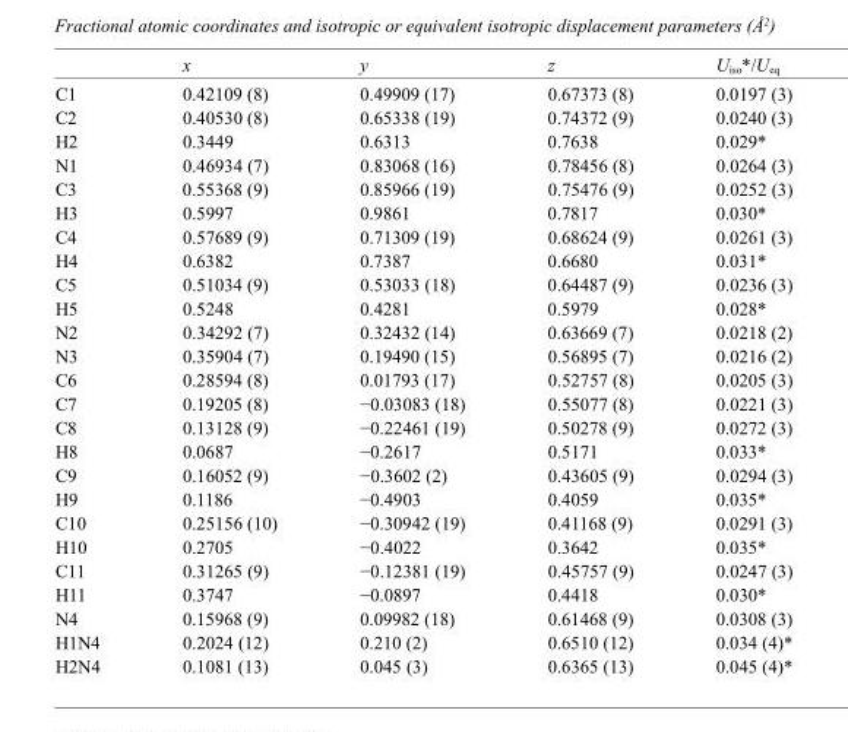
<table><thead><tr><td></td><td>x</td><td>y</td><td>z</td><td>U<sub>iso</sub>*/U<sub>eq</sub></td></tr></thead><tbody><tr><td>C1</td><td>0.42109 (8)</td><td>0.49909 (17)</td><td>0.67373 (8)</td><td>0.0197 (3)</td></tr><tr><td>C2</td><td>0.40530 (8)</td><td>0.65338 (19)</td><td>0.74372 (9)</td><td>0.0240 (3)</td></tr><tr><td>H2</td><td>0.3449</td><td>0.6313</td><td>0.7638</td><td>0.029*</td></tr><tr><td>N1</td><td>0.46934 (7)</td><td>0.83068 (16)</td><td>0.78456 (8)</td><td>0.0264 (3)</td></tr><tr><td>C3</td><td>0.55368 (9)</td><td>0.85966 (19)</td><td>0.75476 (9)</td><td>0.0252 (3)</td></tr><tr><td>H3</td><td>0.5997</td><td>0.9861</td><td>0.7817</td><td>0.030*</td></tr><tr><td>C4</td><td>0.57689 (9)</td><td>0.71309 (19)</td><td>0.68624 (9)</td><td>0.0261 (3)</td></tr><tr><td>H4</td><td>0.6382</td><td>0.7387</td><td>0.6680</td><td>0.031*</td></tr><tr><td>C5</td><td>0.51034 (9)</td><td>0.53033 (18)</td><td>0.64487 (9)</td><td>0.0236 (3)</td></tr><tr><td>H5</td><td>0.5248</td><td>0.4281</td><td>0.5979</td><td>0.028*</td></tr><tr><td>N2</td><td>0.34292 (7)</td><td>0.32432 (14)</td><td>0.63669 (7)</td><td>0.0218 (2)</td></tr><tr><td>N3</td><td>0.35904 (7)</td><td>0.19490 (15)</td><td>0.56895 (7)</td><td>0.0216 (2)</td></tr><tr><td>C6</td><td>0.28594 (8)</td><td>0.01793 (17)</td><td>0.52757 (8)</td><td>0.0205 (3)</td></tr><tr><td>C7</td><td>0.19205 (8)</td><td>−0.03083 (18)</td><td>0.55077 (8)</td><td>0.0221 (3)</td></tr><tr><td>C8</td><td>0.13128 (9)</td><td>−0.22461 (19)</td><td>0.50278 (9)</td><td>0.0272 (3)</td></tr><tr><td>H8</td><td>0.0687</td><td>−0.2617</td><td>0.5171</td><td>0.033*</td></tr><tr><td>C9</td><td>0.16052 (9)</td><td>−0.3602 (2)</td><td>0.43605 (9)</td><td>0.0294 (3)</td></tr><tr><td>H9</td><td>0.1186</td><td>−0.4903</td><td>0.4059</td><td>0.035*</td></tr><tr><td>C10</td><td>0.25156 (10)</td><td>−0.30942 (19)</td><td>0.41168 (9)</td><td>0.0291 (3)</td></tr><tr><td>H10</td><td>0.2705</td><td>−0.4022</td><td>0.3642</td><td>0.035*</td></tr><tr><td>C11</td><td>0.31265 (9)</td><td>−0.12381 (19)</td><td>0.45757 (9)</td><td>0.0247 (3)</td></tr><tr><td>H11</td><td>0.3747</td><td>−0.0897</td><td>0.4418</td><td>0.030*</td></tr><tr><td>N4</td><td>0.15968 (9)</td><td>0.09982 (18)</td><td>0.61468 (9)</td><td>0.0308 (3)</td></tr><tr><td>H1N4</td><td>0.2024 (12)</td><td>0.210 (2)</td><td>0.6510 (12)</td><td>0.034 (4)*</td></tr><tr><td>H2N4</td><td>0.1081 (13)</td><td>0.045 (3)</td><td>0.6365 (13)</td><td>0.045 (4)*</td></tr></tbody></table>